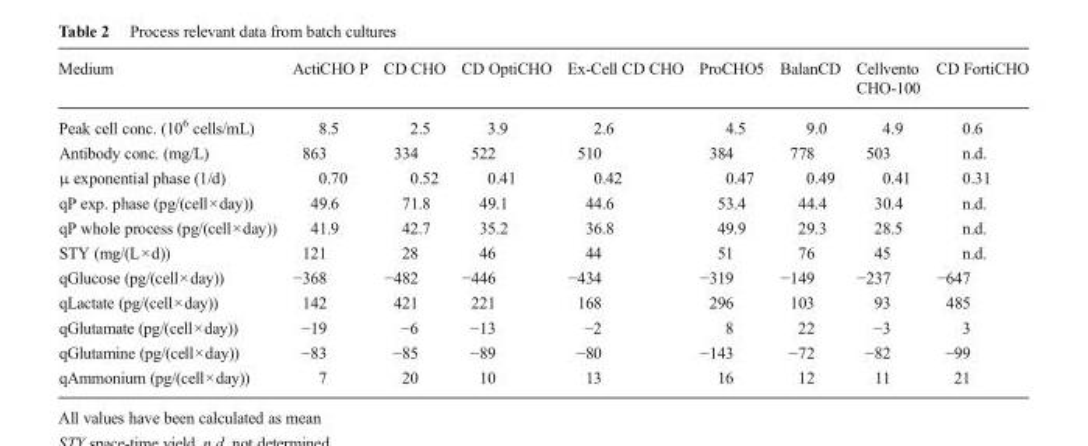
<table><thead><tr><td>Medium</td><td>ActiCHO P</td><td>CD CHO</td><td>CD OptiCHO</td><td>Ex-Cell CD CHO</td><td>ProCHO5</td><td>BalanCD</td><td>Cellvento CHO-100</td><td>CD FortiCHO</td></tr></thead><tbody><tr><td>Peak cell conc. (10<sup>6</sup> cells/mL)</td><td>8.5</td><td>2.5</td><td>3.9</td><td>2.6</td><td>4.5</td><td>9.0</td><td>4.9</td><td>0.6</td></tr><tr><td>Antibody conc. (mg/L)</td><td>863</td><td>334</td><td>522</td><td>510</td><td>384</td><td>778</td><td>503</td><td>n.d.</td></tr><tr><td>μ exponential phase (1/d)</td><td>0.70</td><td>0.52</td><td>0.41</td><td>0.42</td><td>0.47</td><td>0.49</td><td>0.41</td><td>0.31</td></tr><tr><td>qP exp. phase (pg/(cell×day))</td><td>49.6</td><td>71.8</td><td>49.1</td><td>44.6</td><td>53.4</td><td>44.4</td><td>30.4</td><td>n.d.</td></tr><tr><td>qP whole process (pg/(cell×day))</td><td>41.9</td><td>42.7</td><td>35.2</td><td>36.8</td><td>49.9</td><td>29.3</td><td>28.5</td><td>n.d.</td></tr><tr><td>STY (mg/(L×d))</td><td>121</td><td>28</td><td>46</td><td>44</td><td>51</td><td>76</td><td>45</td><td>n.d.</td></tr><tr><td>qGlucose (pg/(cell×day))</td><td>−368</td><td>−482</td><td>−446</td><td>−434</td><td>−319</td><td>−149</td><td>−237</td><td>−647</td></tr><tr><td>qLactate (pg/(cell×day))</td><td>142</td><td>421</td><td>221</td><td>168</td><td>296</td><td>103</td><td>93</td><td>485</td></tr><tr><td>qGlutamate (pg/(cell×day))</td><td>−19</td><td>−6</td><td>−13</td><td>−2</td><td>8</td><td>22</td><td>−3</td><td>3</td></tr><tr><td>qGlutamine (pg/(cell×day))</td><td>−83</td><td>−85</td><td>−89</td><td>−80</td><td>−143</td><td>−72</td><td>−82</td><td>−99</td></tr><tr><td>qAmmonium (pg/(cell×day))</td><td>7</td><td>20</td><td>10</td><td>13</td><td>16</td><td>12</td><td>11</td><td>21</td></tr></tbody></table>